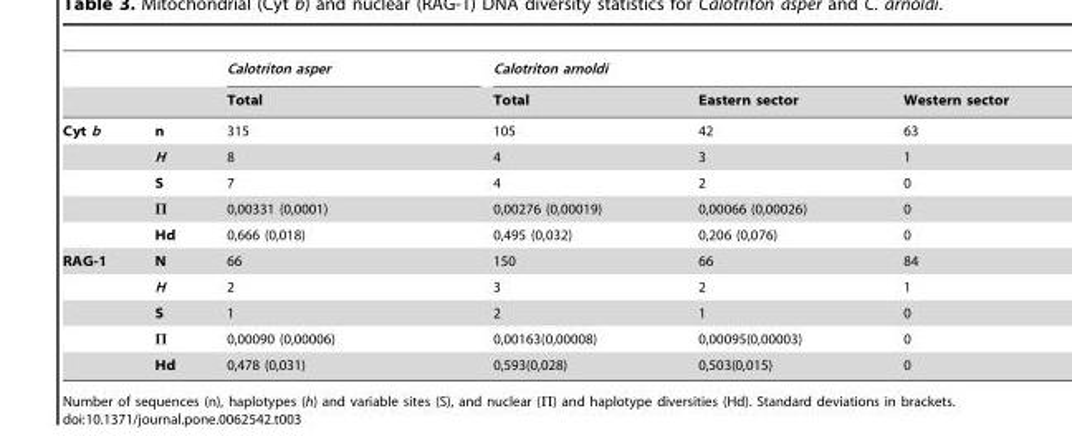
<table><thead><tr><td rowspan="2"></td><td rowspan="2"></td><td rowspan="2">Calotriton asper Total</td><td colspan="3">Calotriton arnoldi</td></tr><tr><td>Total</td><td>Eastern sector</td><td>Western sector</td></tr></thead><tbody><tr><td rowspan="5">Cyt b</td><td>n</td><td>315</td><td>105</td><td>42</td><td>63</td></tr><tr><td>H</td><td>8</td><td>4</td><td>3</td><td>1</td></tr><tr><td>S</td><td>7</td><td>4</td><td>2</td><td>0</td></tr><tr><td>Π</td><td>0,00331 (0,0001)</td><td>0,00276 (0,00019)</td><td>0,00066 (0,00026)</td><td>0</td></tr><tr><td>Hd</td><td>0,666 (0,018)</td><td>0,495 (0,032)</td><td>0,206 (0,076)</td><td>0</td></tr><tr><td rowspan="5">RAG-1</td><td>N</td><td>66</td><td>150</td><td>66</td><td>84</td></tr><tr><td>H</td><td>2</td><td>3</td><td>2</td><td>1</td></tr><tr><td>S</td><td>1</td><td>2</td><td>1</td><td>0</td></tr><tr><td>Π</td><td>0,00090 (0,00006)</td><td>0,00163(0,00008)</td><td>0,00095(0,00003)</td><td>0</td></tr><tr><td>Hd</td><td>0,478 (0,031)</td><td>0,593(0,028)</td><td>0,503(0,015)</td><td>0</td></tr></tbody></table>